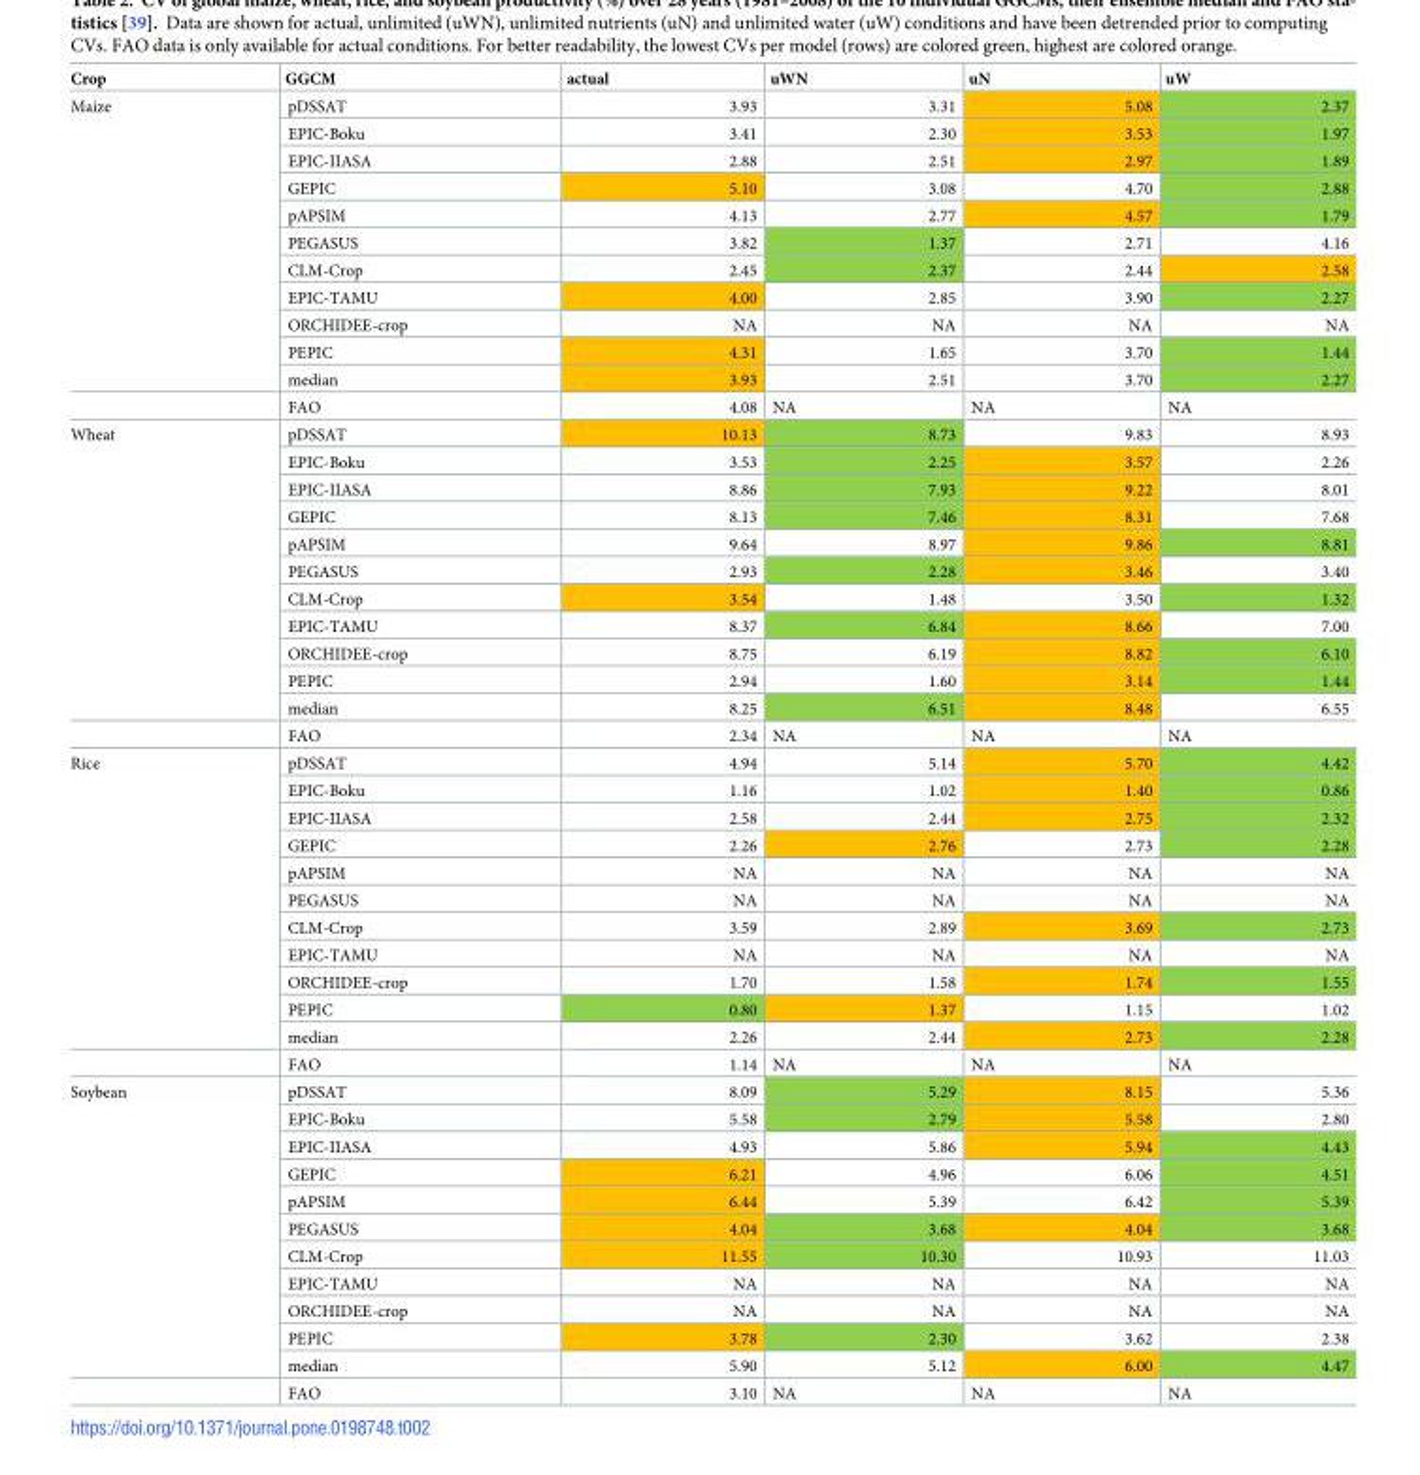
<table><thead><tr><td>Crop</td><td>GGCM</td><td>actual</td><td>uWN</td><td>uN</td><td>uW</td></tr></thead><tbody><tr><td rowspan="12">Maize</td><td>pDSSAT</td><td>3.93</td><td>3.31</td><td>5.08</td><td>2.37</td></tr><tr><td>EPIC-Boku</td><td>3.41</td><td>2.30</td><td>3.53</td><td>1.97</td></tr><tr><td>EPIC-IIASA</td><td>2.88</td><td>2.51</td><td>2.97</td><td>1.89</td></tr><tr><td>GEPIC</td><td>5.10</td><td>3.08</td><td>4.70</td><td>2.88</td></tr><tr><td>pAPSIM</td><td>4.13</td><td>2.77</td><td>4.57</td><td>1.79</td></tr><tr><td>PEGASUS</td><td>3.82</td><td>1.37</td><td>2.71</td><td>4.16</td></tr><tr><td>CLM-Crop</td><td>2.45</td><td>2.37</td><td>2.44</td><td>2.58</td></tr><tr><td>EPIC-TAMU</td><td>4.00</td><td>2.85</td><td>3.90</td><td>2.27</td></tr><tr><td>ORCHIDEE-crop</td><td>NA</td><td>NA</td><td>NA</td><td>NA</td></tr><tr><td>PEPIC</td><td>4.31</td><td>1.65</td><td>3.70</td><td>1.44</td></tr><tr><td>median</td><td>3.93</td><td>2.51</td><td>3.70</td><td>2.27</td></tr><tr><td>FAO</td><td>4.08</td><td>NA</td><td>NA</td><td>NA</td></tr><tr><td rowspan="12">Wheat</td><td>pDSSAT</td><td>10.13</td><td>8.73</td><td>9.83</td><td>8.93</td></tr><tr><td>EPIC-Boku</td><td>3.53</td><td>2.25</td><td>3.57</td><td>2.26</td></tr><tr><td>EPIC-IIASA</td><td>8.86</td><td>7.93</td><td>9.22</td><td>8.01</td></tr><tr><td>GEPIC</td><td>8.13</td><td>7.46</td><td>8.31</td><td>7.68</td></tr><tr><td>pAPSIM</td><td>9.64</td><td>8.97</td><td>9.86</td><td>8.81</td></tr><tr><td>PEGASUS</td><td>2.93</td><td>2.28</td><td>3.46</td><td>3.40</td></tr><tr><td>CLM-Crop</td><td>3.54</td><td>1.48</td><td>3.50</td><td>1.32</td></tr><tr><td>EPIC-TAMU</td><td>8.37</td><td>6.84</td><td>8.66</td><td>7.00</td></tr><tr><td>ORCHIDEE-crop</td><td>8.75</td><td>6.19</td><td>8.82</td><td>6.10</td></tr><tr><td>PEPIC</td><td>2.94</td><td>1.60</td><td>3.14</td><td>1.44</td></tr><tr><td>median</td><td>8.25</td><td>6.51</td><td>8.48</td><td>6.55</td></tr><tr><td>FAO</td><td>2.34</td><td>NA</td><td>NA</td><td>NA</td></tr><tr><td rowspan="12">Rice</td><td>pDSSAT</td><td>4.94</td><td>5.14</td><td>5.70</td><td>4.42</td></tr><tr><td>EPIC-Boku</td><td>1.16</td><td>1.02</td><td>1.40</td><td>0.86</td></tr><tr><td>EPIC-IIASA</td><td>2.58</td><td>2.44</td><td>2.75</td><td>2.32</td></tr><tr><td>GEPIC</td><td>2.26</td><td>2.76</td><td>2.73</td><td>2.28</td></tr><tr><td>pAPSIM</td><td>NA</td><td>NA</td><td>NA</td><td>NA</td></tr><tr><td>PEGASUS</td><td>NA</td><td>NA</td><td>NA</td><td>NA</td></tr><tr><td>CLM-Crop</td><td>3.59</td><td>2.89</td><td>3.69</td><td>2.73</td></tr><tr><td>EPIC-TAMU</td><td>NA</td><td>NA</td><td>NA</td><td>NA</td></tr><tr><td>ORCHIDEE-crop</td><td>1.70</td><td>1.58</td><td>1.74</td><td>1.55</td></tr><tr><td>PEPIC</td><td>0.80</td><td>1.37</td><td>1.15</td><td>1.02</td></tr><tr><td>median</td><td>2.26</td><td>2.44</td><td>2.73</td><td>2.28</td></tr><tr><td>FAO</td><td>1.14</td><td>NA</td><td>NA</td><td>NA</td></tr><tr><td rowspan="12">Soybean</td><td>pDSSAT</td><td>8.09</td><td>5.29</td><td>8.15</td><td>5.36</td></tr><tr><td>EPIC-Boku</td><td>5.58</td><td>2.79</td><td>5.58</td><td>2.80</td></tr><tr><td>EPIC-IIASA</td><td>4.93</td><td>5.86</td><td>5.94</td><td>4.43</td></tr><tr><td>GEPIC</td><td>6.21</td><td>4.96</td><td>6.06</td><td>4.51</td></tr><tr><td>pAPSIM</td><td>6.44</td><td>5.39</td><td>6.42</td><td>5.39</td></tr><tr><td>PEGASUS</td><td>4.04</td><td>3.68</td><td>4.04</td><td>3.68</td></tr><tr><td>CLM-Crop</td><td>11.55</td><td>10.30</td><td>10.93</td><td>11.03</td></tr><tr><td>EPIC-TAMU</td><td>NA</td><td>NA</td><td>NA</td><td>NA</td></tr><tr><td>ORCHIDEE-crop</td><td>NA</td><td>NA</td><td>NA</td><td>NA</td></tr><tr><td>PEPIC</td><td>3.78</td><td>2.30</td><td>3.62</td><td>2.38</td></tr><tr><td>median</td><td>5.90</td><td>5.12</td><td>6.00</td><td>4.47</td></tr><tr><td>FAO</td><td>3.10</td><td>NA</td><td>NA</td><td>NA</td></tr></tbody></table>